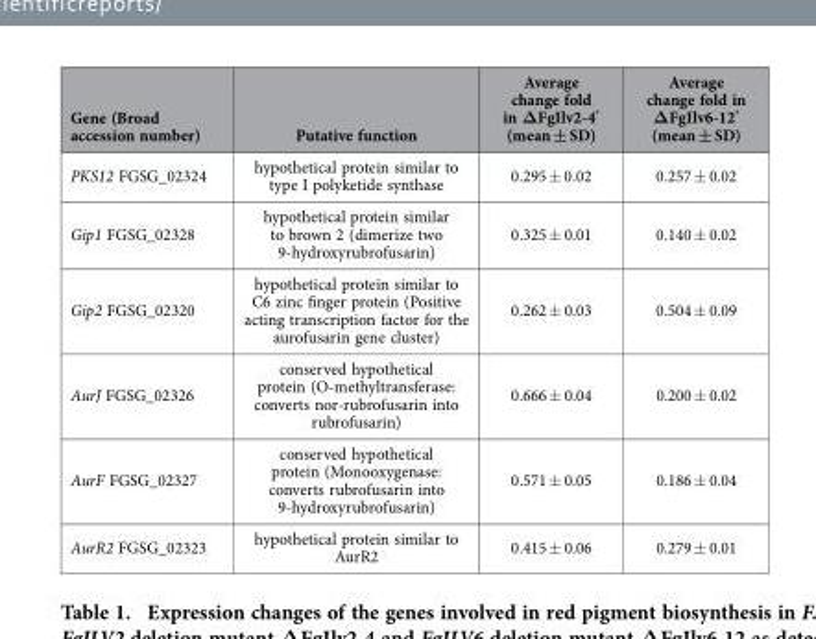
<table><thead><tr><td>Gene (Broad accession number)</td><td>Putative function</td><td>Average change fold in ΔFgIlv2-4* (mean ± SD)</td><td>Average change fold in ΔFgIlv6-12* (mean ± SD)</td></tr></thead><tbody><tr><td>PKS12 FGSG_02324</td><td>hypothetical protein similar to type I polyketide synthase</td><td>0.295 ± 0.02</td><td>0.257 ± 0.02</td></tr><tr><td>Gip1 FGSG_02328</td><td>hypothetical protein similar to brown 2 (dimerize two 9-hydroxyrubrofusarin)</td><td>0.325 ± 0.01</td><td>0.140 ± 0.02</td></tr><tr><td>Gip2 FGSG_02320</td><td>hypothetical protein similar to C6 zinc finger protein (Positive acting transcription factor for the aurofusarin gene cluster)</td><td>0.262 ± 0.03</td><td>0.504 ± 0.09</td></tr><tr><td>AurJ FGSG_02326</td><td>conserved hypothetical protein (O-methyltransferase: converts nor-rubrofusarin into rubrofusarin)</td><td>0.666 ± 0.04</td><td>0.200 ± 0.02</td></tr><tr><td>AurF FGSG_02327</td><td>conserved hypothetical protein (Monooxygenase: converts rubrofusarin into 9-hydroxyrubrofusarin)</td><td>0.571 ± 0.05</td><td>0.186 ± 0.04</td></tr><tr><td>AurR2 FGSG_02323</td><td>hypothetical protein similar to AurR2</td><td>0.415 ± 0.06</td><td>0.279 ± 0.01</td></tr></tbody></table>